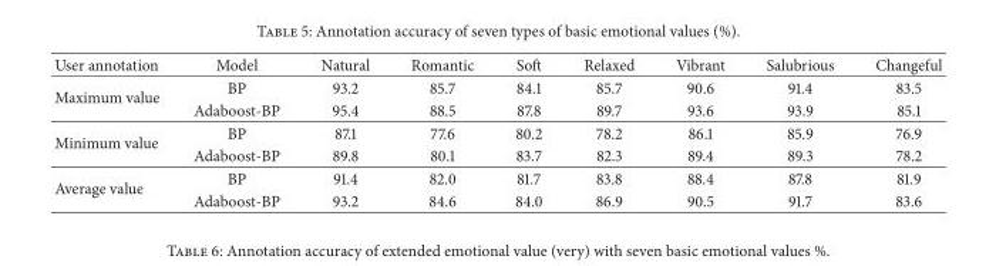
<table><thead><tr><td>User annotation</td><td>Model</td><td>Natural</td><td>Romantic</td><td>Soft</td><td>Relaxed</td><td>Vibrant</td><td>Salubrious</td><td>Changeful</td></tr></thead><tbody><tr><td rowspan="2">Maximum value</td><td>BP</td><td>93.2</td><td>85.7</td><td>84.1</td><td>85.7</td><td>90.6</td><td>91.4</td><td>83.5</td></tr><tr><td>Adaboost-BP</td><td>95.4</td><td>88.5</td><td>87.8</td><td>89.7</td><td>93.6</td><td>93.9</td><td>85.1</td></tr><tr><td rowspan="2">Minimum value</td><td>BP</td><td>87.1</td><td>77.6</td><td>80.2</td><td>78.2</td><td>86.1</td><td>85.9</td><td>76.9</td></tr><tr><td>Adaboost-BP</td><td>89.8</td><td>80.1</td><td>83.7</td><td>82.3</td><td>89.4</td><td>89.3</td><td>78.2</td></tr><tr><td rowspan="2">Average value</td><td>BP</td><td>91.4</td><td>82.0</td><td>81.7</td><td>83.8</td><td>88.4</td><td>87.8</td><td>81.9</td></tr><tr><td>Adaboost-BP</td><td>93.2</td><td>84.6</td><td>84.0</td><td>86.9</td><td>90.5</td><td>91.7</td><td>83.6</td></tr></tbody></table>